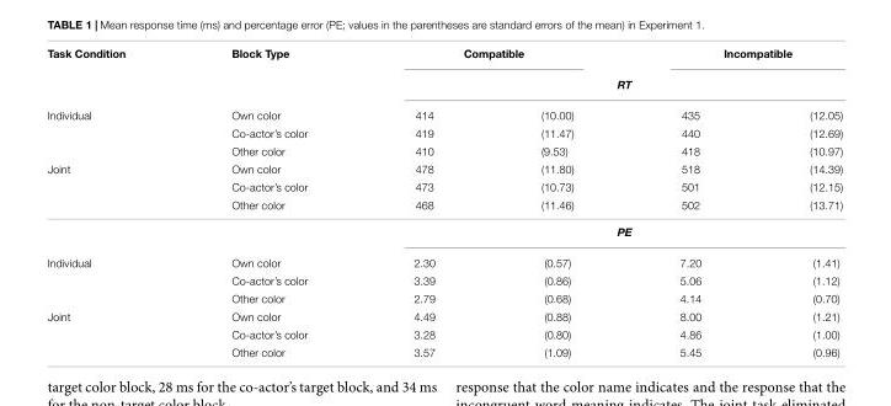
<table><thead><tr><td rowspan="3">Task Condition Individual</td><td rowspan="3">Block Type Own color</td><td colspan="2">Compatible</td><td colspan="2">Incompatible</td></tr><tr><td colspan="4">RT</td></tr><tr><td>414</td><td>(10.00)</td><td>435</td><td>(12.05)</td></tr></thead><tbody><tr><td></td><td>Co-actor’s color</td><td>419</td><td>(11.47)</td><td>440</td><td>(12.69)</td></tr><tr><td></td><td>Other color</td><td>410</td><td>(9.53)</td><td>418</td><td>(10.97)</td></tr><tr><td rowspan="4">Joint</td><td>Own color</td><td>478</td><td>(11.80)</td><td>518</td><td>(14.39)</td></tr><tr><td>Co-actor’s color</td><td>473</td><td>(10.73)</td><td>501</td><td>(12.15)</td></tr><tr><td>Other color</td><td>468</td><td>(11.46)</td><td>502</td><td>(13.71)</td></tr><tr><td></td><td colspan="4">PE</td></tr><tr><td rowspan="3">Individual</td><td>Own color</td><td>2.30</td><td>(0.57)</td><td>7.20</td><td>(1.41)</td></tr><tr><td>Co-actor’s color</td><td>3.39</td><td>(0.86)</td><td>5.06</td><td>(1.12)</td></tr><tr><td>Other color</td><td>2.79</td><td>(0.68)</td><td>4.14</td><td>(0.70)</td></tr><tr><td rowspan="3">Joint</td><td>Own color</td><td>4.49</td><td>(0.88)</td><td>8.00</td><td>(1.21)</td></tr><tr><td>Co-actor’s color</td><td>3.28</td><td>(0.80)</td><td>4.86</td><td>(1.00)</td></tr><tr><td>Other color</td><td>3.57</td><td>(1.09)</td><td>5.45</td><td>(0.96)</td></tr></tbody></table>